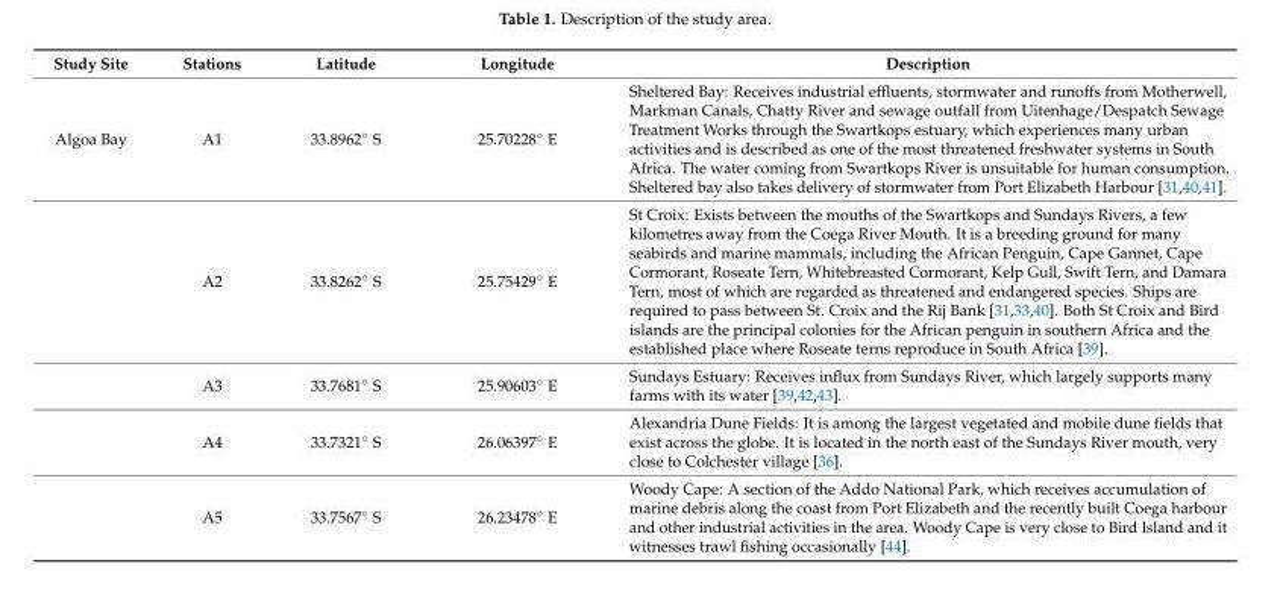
<table><thead><tr><td>Study Site</td><td>Stations</td><td>Latitude</td><td>Longitude</td><td>Description</td></tr></thead><tbody><tr><td rowspan="5">Algoa Bay</td><td>A1</td><td>33.8962◦ S</td><td>25.70228◦ E</td><td>Sheltered Bay: Receives industrial effluents, stormwater and runoffs from Motherwell, Markman Canals, Chatty River and sewage outfall from Uitenhage/Despatch Sewage Treatment Works through the Swartkops estuary, which experiences many urban activities and is described as one of the most threatened freshwater systems in South Africa. The water coming from Swartkops River is unsuitable for human consumption. Sheltered bay also takes delivery of stormwater from Port Elizabeth Harbour [31,40,41].</td></tr><tr><td>A2</td><td>33.8262◦ S</td><td>25.75429◦ E</td><td>St Croix: Exists between the mouths of the Swartkops and Sundays Rivers, a few kilometres away from the Coega River Mouth. It is a breeding ground for many seabirds and marine mammals, including the African Penguin, Cape Gannet, Cape Cormorant, Roseate Tern, Whitebreasted Cormorant, Kelp Gull, Swift Tern, and Damara Tern, most of which are regarded as threatened and endangered species. Ships are required to pass between St. Croix and the Rij Bank [31,33,40]. Both St Croix and Bird islands are the principal colonies for the African penguin in southern Africa and the established place where Roseate terns reproduce in South Africa [39].</td></tr><tr><td>A3</td><td>33.7681◦ S</td><td>25.90603◦ E</td><td>Sundays Estuary: Receives influx from Sundays River, which largely supports many farms with its water [39,42,43].</td></tr><tr><td>A4</td><td>33.7321◦ S</td><td>26.06397◦ E</td><td>Alexandria Dune Fields: It is among the largest vegetated and mobile dune fields that exist across the globe. It is located in the north east of the Sundays River mouth, very close to Colchester village [36].</td></tr><tr><td>A5</td><td>33.7567◦ S</td><td>26.23478◦ E</td><td>Woody Cape: A section of the Addo National Park, which receives accumulation of marine debris along the coast from Port Elizabeth and the recently built Coega harbour and other industrial activities in the area. Woody Cape is very close to Bird Island and it witnesses trawl fishing occasionally [44].</td></tr></tbody></table>